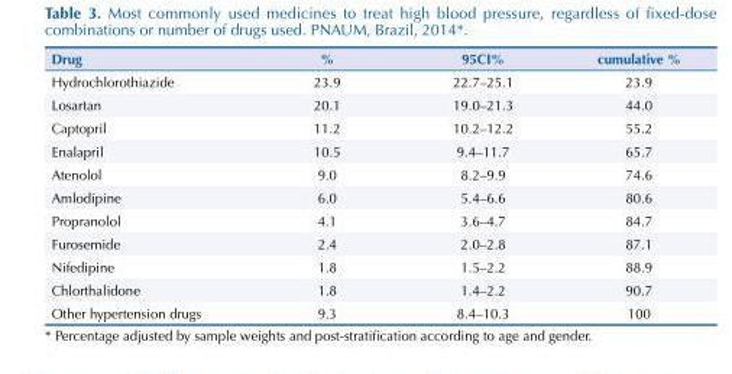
<table><thead><tr><td>Drug</td><td>%</td><td>95CI%</td><td>cumulative %</td></tr></thead><tbody><tr><td>Hydrochlorothiazide</td><td>23.9</td><td>22.7–25.1</td><td>23.9</td></tr><tr><td>Losartan</td><td>20.1</td><td>19.0–21.3</td><td>44.0</td></tr><tr><td>Captopril</td><td>11.2</td><td>10.2–12.2</td><td>55.2</td></tr><tr><td>Enalapril</td><td>10.5</td><td>9.4–11.7</td><td>65.7</td></tr><tr><td>Atenolol</td><td>9.0</td><td>8.2–9.9</td><td>74.6</td></tr><tr><td>Amlodipine</td><td>6.0</td><td>5.4–6.6</td><td>80.6</td></tr><tr><td>Propranolol</td><td>4.1</td><td>3.6–4.7</td><td>84.7</td></tr><tr><td>Furosemide</td><td>2.4</td><td>2.0–2.8</td><td>87.1</td></tr><tr><td>Nifedipine</td><td>1.8</td><td>1.5–2.2</td><td>88.9</td></tr><tr><td>Chlorthalidone</td><td>1.8</td><td>1.4–2.2</td><td>90.7</td></tr><tr><td>Other hypertension drugs</td><td>9.3</td><td>8.4–10.3</td><td>100</td></tr></tbody></table>